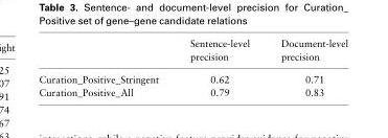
<table><thead><tr><td></td><td>Sentence-level precision</td><td>Document-level precision</td></tr></thead><tbody><tr><td>Curation_Positive_Stringent</td><td>0.62</td><td>0.71</td></tr><tr><td>Curation_Positive_All</td><td>0.79</td><td>0.83</td></tr></tbody></table>